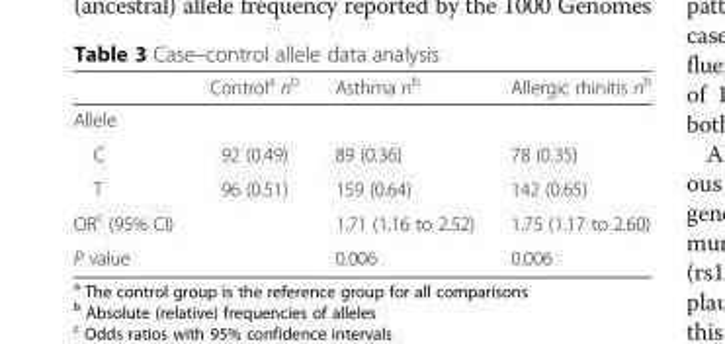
<table><thead><tr><td></td><td>Control<sup>a</sup> n<sup>b</sup></td><td>Asthma n<sup>b</sup></td><td>Allergic rhinitis n<sup>b</sup></td></tr></thead><tbody><tr><td colspan="4">Allele</td></tr><tr><td>C</td><td>92 (0.49)</td><td>89 (0.36)</td><td>78 (0.35)</td></tr><tr><td>T</td><td>96 (0.51)</td><td>159 (0.64)</td><td>142 (0.65)</td></tr><tr><td>OR<sup>c</sup> (95% CI)</td><td></td><td>1.71 (1.16 to 2.52)</td><td>1.75 (1.17 to 2.60)</td></tr><tr><td>P value</td><td></td><td>0.006</td><td>0.006</td></tr></tbody></table>